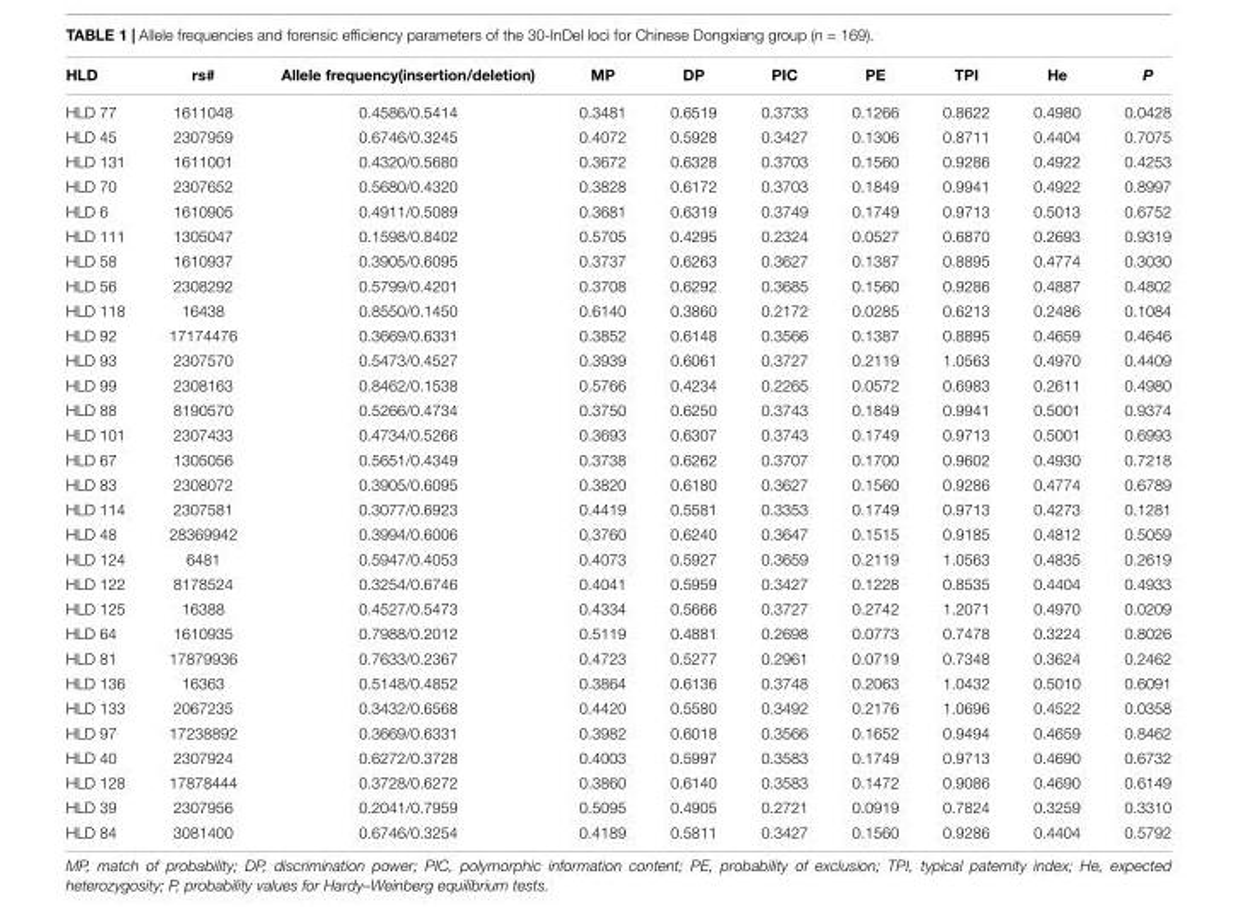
<table><thead><tr><td>HLD</td><td>rs#</td><td>Allele frequency(insertion/deletion)</td><td>MP</td><td>DP</td><td>PIC</td><td>PE</td><td>TPI</td><td>He</td><td>P</td></tr></thead><tbody><tr><td>HLD 77</td><td>1611048</td><td>0.4586/0.5414</td><td>0.3481</td><td>0.6519</td><td>0.3733</td><td>0.1266</td><td>0.8622</td><td>0.4980</td><td>0.0428</td></tr><tr><td>HLD 45</td><td>2307959</td><td>0.6746/0.3245</td><td>0.4072</td><td>0.5928</td><td>0.3427</td><td>0.1306</td><td>0.8711</td><td>0.4404</td><td>0.7075</td></tr><tr><td>HLD 131</td><td>1611001</td><td>0.4320/0.5680</td><td>0.3672</td><td>0.6328</td><td>0.3703</td><td>0.1560</td><td>0.9286</td><td>0.4922</td><td>0.4253</td></tr><tr><td>HLD 70</td><td>2307652</td><td>0.5680/0.4320</td><td>0.3828</td><td>0.6172</td><td>0.3703</td><td>0.1849</td><td>0.9941</td><td>0.4922</td><td>0.8997</td></tr><tr><td>HLD 6</td><td>1610905</td><td>0.4911/0.5089</td><td>0.3681</td><td>0.6319</td><td>0.3749</td><td>0.1749</td><td>0.9713</td><td>0.5013</td><td>0.6752</td></tr><tr><td>HLD 111</td><td>1305047</td><td>0.1598/0.8402</td><td>0.5705</td><td>0.4295</td><td>0.2324</td><td>0.0527</td><td>0.6870</td><td>0.2693</td><td>0.9319</td></tr><tr><td>HLD 58</td><td>1610937</td><td>0.3905/0.6095</td><td>0.3737</td><td>0.6263</td><td>0.3627</td><td>0.1387</td><td>0.8895</td><td>0.4774</td><td>0.3030</td></tr><tr><td>HLD 56</td><td>2308292</td><td>0.5799/0.4201</td><td>0.3708</td><td>0.6292</td><td>0.3685</td><td>0.1560</td><td>0.9286</td><td>0.4887</td><td>0.4802</td></tr><tr><td>HLD 118</td><td>16438</td><td>0.8550/0.1450</td><td>0.6140</td><td>0.3860</td><td>0.2172</td><td>0.0285</td><td>0.6213</td><td>0.2486</td><td>0.1084</td></tr><tr><td>HLD 92</td><td>17174476</td><td>0.3669/0.6331</td><td>0.3852</td><td>0.6148</td><td>0.3566</td><td>0.1387</td><td>0.8895</td><td>0.4659</td><td>0.4646</td></tr><tr><td>HLD 93</td><td>2307570</td><td>0.5473/0.4527</td><td>0.3939</td><td>0.6061</td><td>0.3727</td><td>0.2119</td><td>1.0563</td><td>0.4970</td><td>0.4409</td></tr><tr><td>HLD 99</td><td>2308163</td><td>0.8462/0.1538</td><td>0.5766</td><td>0.4234</td><td>0.2265</td><td>0.0572</td><td>0.6983</td><td>0.2611</td><td>0.4980</td></tr><tr><td>HLD 88</td><td>8190570</td><td>0.5266/0.4734</td><td>0.3750</td><td>0.6250</td><td>0.3743</td><td>0.1849</td><td>0.9941</td><td>0.5001</td><td>0.9374</td></tr><tr><td>HLD 101</td><td>2307433</td><td>0.4734/0.5266</td><td>0.3693</td><td>0.6307</td><td>0.3743</td><td>0.1749</td><td>0.9713</td><td>0.5001</td><td>0.6993</td></tr><tr><td>HLD 67</td><td>1305056</td><td>0.5651/0.4349</td><td>0.3738</td><td>0.6262</td><td>0.3707</td><td>0.1700</td><td>0.9602</td><td>0.4930</td><td>0.7218</td></tr><tr><td>HLD 83</td><td>2308072</td><td>0.3905/0.6095</td><td>0.3820</td><td>0.6180</td><td>0.3627</td><td>0.1560</td><td>0.9286</td><td>0.4774</td><td>0.6789</td></tr><tr><td>HLD 114</td><td>2307581</td><td>0.3077/0.6923</td><td>0.4419</td><td>0.5581</td><td>0.3353</td><td>0.1749</td><td>0.9713</td><td>0.4273</td><td>0.1281</td></tr><tr><td>HLD 48</td><td>28369942</td><td>0.3994/0.6006</td><td>0.3760</td><td>0.6240</td><td>0.3647</td><td>0.1515</td><td>0.9185</td><td>0.4812</td><td>0.5059</td></tr><tr><td>HLD 124</td><td>6481</td><td>0.5947/0.4053</td><td>0.4073</td><td>0.5927</td><td>0.3659</td><td>0.2119</td><td>1.0563</td><td>0.4835</td><td>0.2619</td></tr><tr><td>HLD 122</td><td>8178524</td><td>0.3254/0.6746</td><td>0.4041</td><td>0.5959</td><td>0.3427</td><td>0.1228</td><td>0.8535</td><td>0.4404</td><td>0.4933</td></tr><tr><td>HLD 125</td><td>16388</td><td>0.4527/0.5473</td><td>0.4334</td><td>0.5666</td><td>0.3727</td><td>0.2742</td><td>1.2071</td><td>0.4970</td><td>0.0209</td></tr><tr><td>HLD 64</td><td>1610935</td><td>0.7988/0.2012</td><td>0.5119</td><td>0.4881</td><td>0.2698</td><td>0.0773</td><td>0.7478</td><td>0.3224</td><td>0.8026</td></tr><tr><td>HLD 81</td><td>17879936</td><td>0.7633/0.2367</td><td>0.4723</td><td>0.5277</td><td>0.2961</td><td>0.0719</td><td>0.7348</td><td>0.3624</td><td>0.2462</td></tr><tr><td>HLD 136</td><td>16363</td><td>0.5148/0.4852</td><td>0.3864</td><td>0.6136</td><td>0.3748</td><td>0.2063</td><td>1.0432</td><td>0.5010</td><td>0.6091</td></tr><tr><td>HLD 133</td><td>2067235</td><td>0.3432/0.6568</td><td>0.4420</td><td>0.5580</td><td>0.3492</td><td>0.2176</td><td>1.0696</td><td>0.4522</td><td>0.0358</td></tr><tr><td>HLD 97</td><td>17238892</td><td>0.3669/0.6331</td><td>0.3982</td><td>0.6018</td><td>0.3566</td><td>0.1652</td><td>0.9494</td><td>0.4659</td><td>0.8462</td></tr><tr><td>HLD 40</td><td>2307924</td><td>0.6272/0.3728</td><td>0.4003</td><td>0.5997</td><td>0.3583</td><td>0.1749</td><td>0.9713</td><td>0.4690</td><td>0.6732</td></tr><tr><td>HLD 128</td><td>17878444</td><td>0.3728/0.6272</td><td>0.3860</td><td>0.6140</td><td>0.3583</td><td>0.1472</td><td>0.9086</td><td>0.4690</td><td>0.6149</td></tr><tr><td>HLD 39</td><td>2307956</td><td>0.2041/0.7959</td><td>0.5095</td><td>0.4905</td><td>0.2721</td><td>0.0919</td><td>0.7824</td><td>0.3259</td><td>0.3310</td></tr><tr><td>HLD 84</td><td>3081400</td><td>0.6746/0.3254</td><td>0.4189</td><td>0.5811</td><td>0.3427</td><td>0.1560</td><td>0.9286</td><td>0.4404</td><td>0.5792</td></tr></tbody></table>